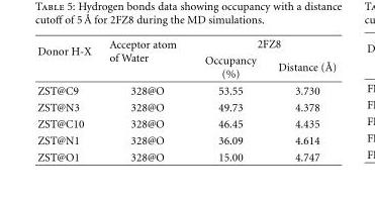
<table><thead><tr><td rowspan="2">Donor H-X</td><td rowspan="2">Acceptor atom of Water</td><td colspan="2">2FZ8</td></tr><tr><td>Occupancy (%)</td><td>Distance ( ˚A)</td></tr></thead><tbody><tr><td>ZST@C9</td><td>328@O</td><td>53.55</td><td>3.730</td></tr><tr><td>ZST@N3</td><td>328@O</td><td>49.73</td><td>4.378</td></tr><tr><td>ZST@C10</td><td>328@O</td><td>46.45</td><td>4.435</td></tr><tr><td>ZST@N1</td><td>328@O</td><td>36.09</td><td>4.614</td></tr><tr><td>ZST@O1</td><td>328@O</td><td>15.00</td><td>4.747</td></tr></tbody></table>